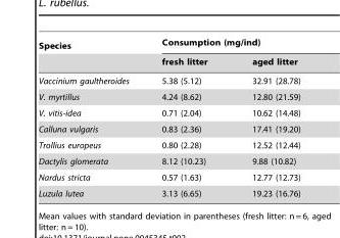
<table><thead><tr><td rowspan="2">Species</td><td colspan="2">Consumption (mg/ind)</td></tr><tr><td>fresh litter</td><td>aged litter</td></tr></thead><tbody><tr><td>Vaccinium gaultheroides</td><td>5.38 (5.12)</td><td>32.91 (28.78)</td></tr><tr><td>V. myrtillus</td><td>4.24 (8.62)</td><td>12.80 (21.59)</td></tr><tr><td>V. vitis-idea</td><td>0.71 (2.04)</td><td>10.62 (14.48)</td></tr><tr><td>Calluna vulgaris</td><td>0.83 (2.36)</td><td>17.41 (19.20)</td></tr><tr><td>Trollius europeus</td><td>0.80 (2.28)</td><td>12.52 (12.44)</td></tr><tr><td>Dactylis glomerata</td><td>8.12 (10.23)</td><td>9.88 (10.82)</td></tr><tr><td>Nardus stricta</td><td>0.57 (1.63)</td><td>12.77 (12.73)</td></tr><tr><td>Luzula lutea</td><td>3.13 (6.65)</td><td>19.23 (16.76)</td></tr></tbody></table>